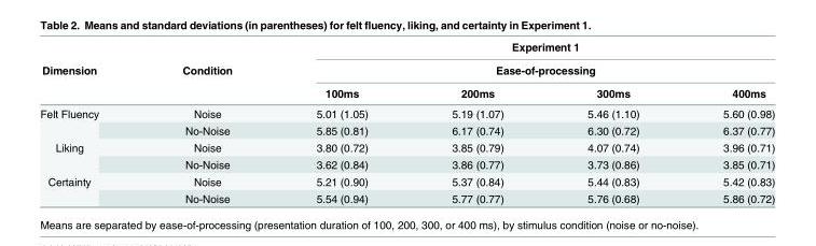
<table><thead><tr><td rowspan="3">Dimension</td><td rowspan="3">Condition</td><td rowspan="2" colspan="4">Experiment 1 Ease-of-processing</td></tr><tr></tr><tr><td>100ms</td><td>200ms</td><td>300ms</td><td>400ms</td></tr></thead><tbody><tr><td rowspan="2">Felt Fluency</td><td>Noise</td><td>5.01 (1.05)</td><td>5.19 (1.07)</td><td>5.46 (1.10)</td><td>5.60 (0.98)</td></tr><tr><td>No-Noise</td><td>5.85 (0.81)</td><td>6.17 (0.74)</td><td>6.30 (0.72)</td><td>6.37 (0.77)</td></tr><tr><td rowspan="2">Liking</td><td>Noise</td><td>3.80 (0.72)</td><td>3.85 (0.79)</td><td>4.07 (0.74)</td><td>3.96 (0.71)</td></tr><tr><td>No-Noise</td><td>3.62 (0.84)</td><td>3.86 (0.77)</td><td>3.73 (0.86)</td><td>3.85 (0.71)</td></tr><tr><td rowspan="2">Certainty</td><td>Noise</td><td>5.21 (0.90)</td><td>5.37 (0.84)</td><td>5.44 (0.83)</td><td>5.42 (0.83)</td></tr><tr><td>No-Noise</td><td>5.54 (0.94)</td><td>5.77 (0.77)</td><td>5.76 (0.68)</td><td>5.86 (0.72)</td></tr></tbody></table>